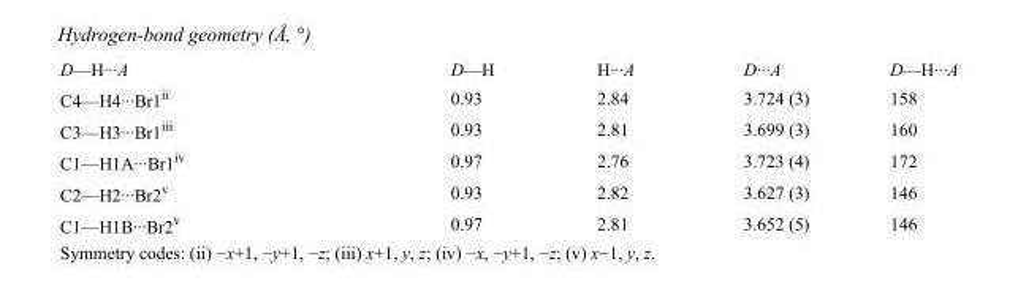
<table><tbody><tr><td>D—H···A</td><td>D—H</td><td>H···A</td><td>D···A</td><td>D—H···A</td></tr><tr><td>C4—H4···Br1<sup>ii</sup></td><td>0.93</td><td>2.84</td><td>3.724 (3)</td><td>158</td></tr><tr><td>C3—H3···Br1<sup>iii</sup></td><td>0.93</td><td>2.81</td><td>3.699 (3)</td><td>160</td></tr><tr><td>C1—H1A···Br1<sup>iv</sup></td><td>0.97</td><td>2.76</td><td>3.723 (4)</td><td>172</td></tr><tr><td>C2—H2···Br2<sup>v</sup></td><td>0.93</td><td>2.82</td><td>3.627 (3)</td><td>146</td></tr><tr><td>C1—H1B···Br2<sup>v</sup></td><td>0.97</td><td>2.81</td><td>3.652 (5)</td><td>146</td></tr></tbody></table>